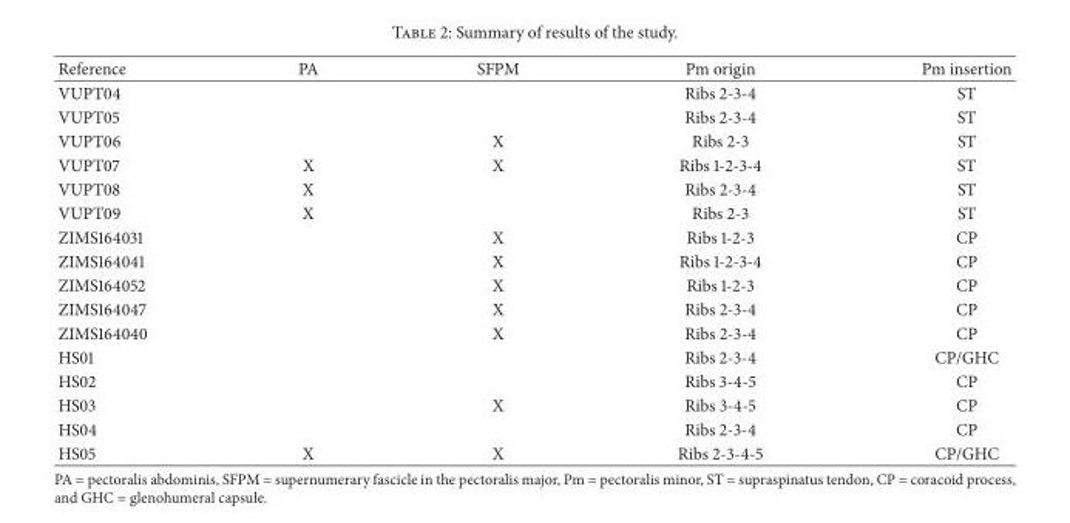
<table><thead><tr><td>Reference</td><td>PA</td><td>SFPM</td><td>Pm origin</td><td>Pm insertion</td></tr></thead><tbody><tr><td>VUPT04</td><td></td><td></td><td>Ribs 2-3-4</td><td>ST</td></tr><tr><td>VUPT05</td><td></td><td></td><td>Ribs 2-3-4</td><td>ST</td></tr><tr><td>VUPT06</td><td></td><td>X</td><td>Ribs 2-3</td><td>ST</td></tr><tr><td>VUPT07</td><td>X</td><td>X</td><td>Ribs 1-2-3-4</td><td>ST</td></tr><tr><td>VUPT08</td><td>X</td><td></td><td>Ribs 2-3-4</td><td>ST</td></tr><tr><td>VUPT09</td><td>X</td><td></td><td>Ribs 2-3</td><td>ST</td></tr><tr><td>ZIMS164031</td><td></td><td>X</td><td>Ribs 1-2-3</td><td>CP</td></tr><tr><td>ZIMS164041</td><td></td><td>X</td><td>Ribs 1-2-3-4</td><td>CP</td></tr><tr><td>ZIMS164052</td><td></td><td>X</td><td>Ribs 1-2-3</td><td>CP</td></tr><tr><td>ZIMS164047</td><td></td><td>X</td><td>Ribs 2-3-4</td><td>CP</td></tr><tr><td>ZIMS164040</td><td></td><td>X</td><td>Ribs 2-3-4</td><td>CP</td></tr><tr><td>HS01</td><td></td><td></td><td>Ribs 2-3-4</td><td>CP/GHC</td></tr><tr><td>HS02</td><td></td><td></td><td>Ribs 3-4-5</td><td>CP</td></tr><tr><td>HS03</td><td></td><td>X</td><td>Ribs 3-4-5</td><td>CP</td></tr><tr><td>HS04</td><td></td><td></td><td>Ribs 2-3-4</td><td>CP</td></tr><tr><td>HS05</td><td>X</td><td>X</td><td>Ribs 2-3-4-5</td><td>CP/GHC</td></tr></tbody></table>